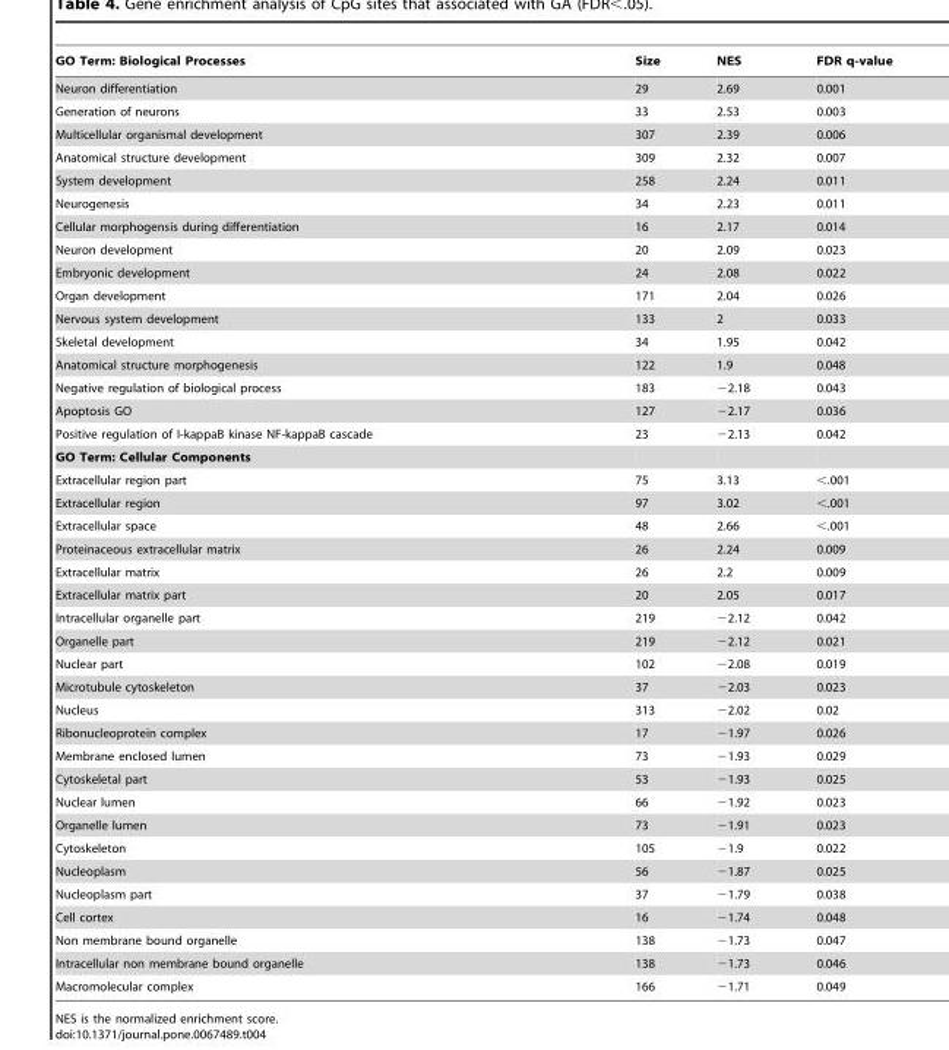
<table><thead><tr><td>GO Term: Biological Processes</td><td>Size</td><td>NES</td><td>FDR q-value</td></tr></thead><tbody><tr><td>Neuron differentiation</td><td>29</td><td>2.69</td><td>0.001</td></tr><tr><td>Generation of neurons</td><td>33</td><td>2.53</td><td>0.003</td></tr><tr><td>Multicellular organismal development</td><td>307</td><td>2.39</td><td>0.006</td></tr><tr><td>Anatomical structure development</td><td>309</td><td>2.32</td><td>0.007</td></tr><tr><td>System development</td><td>258</td><td>2.24</td><td>0.011</td></tr><tr><td>Neurogenesis</td><td>34</td><td>2.23</td><td>0.011</td></tr><tr><td>Cellular morphogensis during differentiation</td><td>16</td><td>2.17</td><td>0.014</td></tr><tr><td>Neuron development</td><td>20</td><td>2.09</td><td>0.023</td></tr><tr><td>Embryonic development</td><td>24</td><td>2.08</td><td>0.022</td></tr><tr><td>Organ development</td><td>171</td><td>2.04</td><td>0.026</td></tr><tr><td>Nervous system development</td><td>133</td><td>2</td><td>0.033</td></tr><tr><td>Skeletal development</td><td>34</td><td>1.95</td><td>0.042</td></tr><tr><td>Anatomical structure morphogenesis</td><td>122</td><td>1.9</td><td>0.048</td></tr><tr><td>Negative regulation of biological process</td><td>183</td><td>−2.18</td><td>0.043</td></tr><tr><td>Apoptosis GO</td><td>127</td><td>−2.17</td><td>0.036</td></tr><tr><td>Positive regulation of I-kappaB kinase NF-kappaB cascade</td><td>23</td><td>−2.13</td><td>0.042</td></tr><tr><td colspan="4">GO Term: Cellular Components</td></tr><tr><td>Extracellular region part</td><td>75</td><td>3.13</td><td>&lt;.001</td></tr><tr><td>Extracellular region</td><td>97</td><td>3.02</td><td>&lt;.001</td></tr><tr><td>Extracellular space</td><td>48</td><td>2.66</td><td>&lt;.001</td></tr><tr><td>Proteinaceous extracellular matrix</td><td>26</td><td>2.24</td><td>0.009</td></tr><tr><td>Extracellular matrix</td><td>26</td><td>2.2</td><td>0.009</td></tr><tr><td>Extracellular matrix part</td><td>20</td><td>2.05</td><td>0.017</td></tr><tr><td>Intracellular organelle part</td><td>219</td><td>−2.12</td><td>0.042</td></tr><tr><td>Organelle part</td><td>219</td><td>−2.12</td><td>0.021</td></tr><tr><td>Nuclear part</td><td>102</td><td>−2.08</td><td>0.019</td></tr><tr><td>Microtubule cytoskeleton</td><td>37</td><td>−2.03</td><td>0.023</td></tr><tr><td>Nucleus</td><td>313</td><td>−2.02</td><td>0.02</td></tr><tr><td>Ribonucleoprotein complex</td><td>17</td><td>−1.97</td><td>0.026</td></tr><tr><td>Membrane enclosed lumen</td><td>73</td><td>−1.93</td><td>0.029</td></tr><tr><td>Cytoskeletal part</td><td>53</td><td>−1.93</td><td>0.025</td></tr><tr><td>Nuclear lumen</td><td>66</td><td>−1.92</td><td>0.023</td></tr><tr><td>Organelle lumen</td><td>73</td><td>−1.91</td><td>0.023</td></tr><tr><td>Cytoskeleton</td><td>105</td><td>−1.9</td><td>0.022</td></tr><tr><td>Nucleoplasm</td><td>56</td><td>−1.87</td><td>0.025</td></tr><tr><td>Nucleoplasm part</td><td>37</td><td>−1.79</td><td>0.038</td></tr><tr><td>Cell cortex</td><td>16</td><td>−1.74</td><td>0.048</td></tr><tr><td>Non membrane bound organelle</td><td>138</td><td>−1.73</td><td>0.047</td></tr><tr><td>Intracellular non membrane bound organelle</td><td>138</td><td>−1.73</td><td>0.046</td></tr><tr><td>Macromolecular complex</td><td>166</td><td>−1.71</td><td>0.049</td></tr></tbody></table>